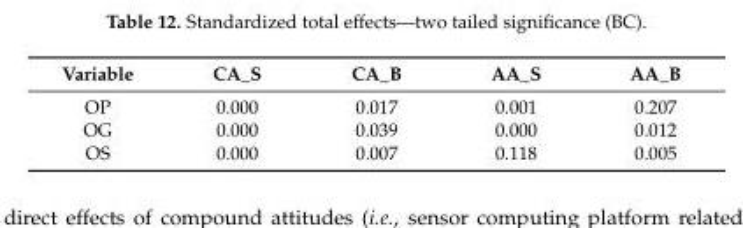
<table><thead><tr><td>Variable</td><td>CA_S</td><td>CA_B</td><td>AA_S</td><td>AA_B</td></tr></thead><tbody><tr><td>OP</td><td>0.000</td><td>0.017</td><td>0.001</td><td>0.207</td></tr><tr><td>OG</td><td>0.000</td><td>0.039</td><td>0.000</td><td>0.012</td></tr><tr><td>OS</td><td>0.000</td><td>0.007</td><td>0.118</td><td>0.005</td></tr></tbody></table>